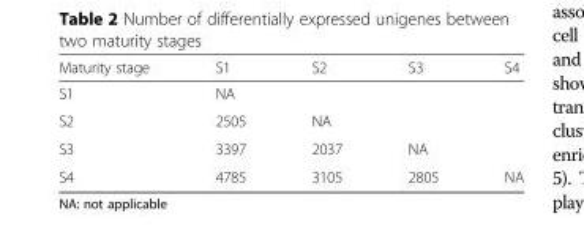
<table><thead><tr><td>Maturity stage</td><td>S1</td><td>S2</td><td>S3</td><td>S4</td></tr></thead><tbody><tr><td>S1</td><td>NA</td><td></td><td></td><td></td></tr><tr><td>S2</td><td>2505</td><td>NA</td><td></td><td></td></tr><tr><td>S3</td><td>3397</td><td>2037</td><td>NA</td><td></td></tr><tr><td>S4</td><td>4785</td><td>3105</td><td>2805</td><td>NA</td></tr></tbody></table>